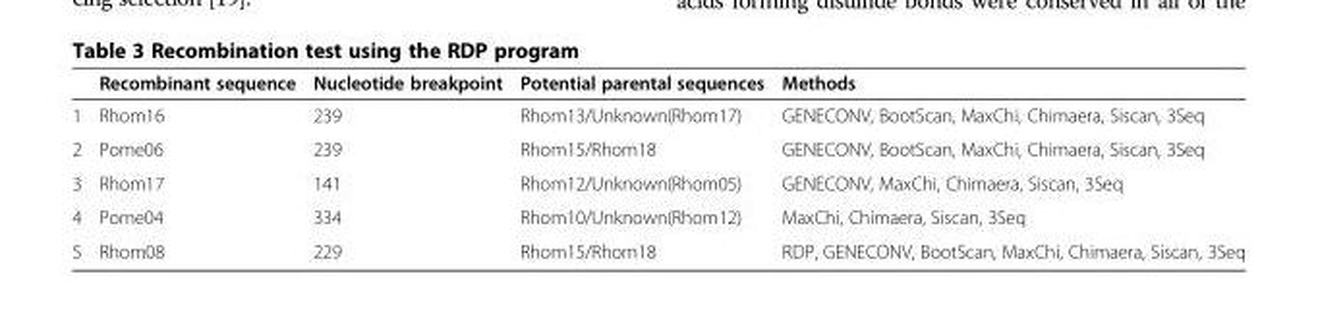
<table><thead><tr><td></td><td>Recombinant sequence</td><td>Nucleotide breakpoint</td><td>Potential parental sequences</td><td>Methods</td></tr></thead><tbody><tr><td>1</td><td>Rhom16</td><td>239</td><td>Rhom13/Unknown(Rhom17)</td><td>GENECONV, BootScan, MaxChi, Chimaera, Siscan, 3Seq</td></tr><tr><td>2</td><td>Pome06</td><td>239</td><td>Rhom15/Rhom18</td><td>GENECONV, BootScan, MaxChi, Chimaera, Siscan, 3Seq</td></tr><tr><td>3</td><td>Rhom17</td><td>141</td><td>Rhom12/Unknown(Rhom05)</td><td>GENECONV, MaxChi, Chimaera, Siscan, 3Seq</td></tr><tr><td>4</td><td>Pome04</td><td>334</td><td>Rhom10/Unknown(Rhom12)</td><td>MaxChi, Chimaera, Siscan, 3Seq</td></tr><tr><td>5</td><td>Rhom08</td><td>229</td><td>Rhom15/Rhom18</td><td>RDP, GENECONV, BootScan, MaxChi, Chimaera, Siscan, 3Seq</td></tr></tbody></table>